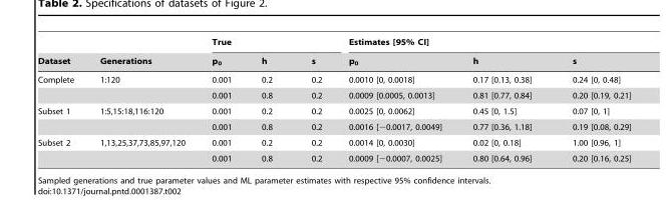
<table><thead><tr><td rowspan="2">Dataset</td><td rowspan="2">Generations</td><td colspan="3">True</td><td colspan="3">Estimates [95% CI]</td></tr><tr><td>p<sub>0</sub></td><td>h</td><td>s</td><td>p<sub>0</sub></td><td>h</td><td>s</td></tr></thead><tbody><tr><td rowspan="2">Complete</td><td>1:120</td><td>0.001</td><td>0.2</td><td>0.2</td><td>0.0010 [0, 0.0018]</td><td>0.17 [0.13, 0.38]</td><td>0.24 [0, 0.48]</td></tr><tr><td></td><td>0.001</td><td>0.8</td><td>0.2</td><td>0.0009 [0.0005, 0.0013]</td><td>0.81 [0.77, 0.84]</td><td>0.20 [0.19, 0.21]</td></tr><tr><td rowspan="2">Subset 1</td><td>1:5,15:18,116:120</td><td>0.001</td><td>0.2</td><td>0.2</td><td>0.0025 [0, 0.0062]</td><td>0.45 [0, 1.5]</td><td>0.07 [0, 1]</td></tr><tr><td></td><td>0.001</td><td>0.8</td><td>0.2</td><td>0.0016 [−0.0017, 0.0049]</td><td>0.77 [0.36, 1.18]</td><td>0.19 [0.08, 0.29]</td></tr><tr><td rowspan="2">Subset 2</td><td>1,13,25,37,73,85,97,120</td><td>0.001</td><td>0.2</td><td>0.2</td><td>0.0014 [0, 0.0030]</td><td>0.02 [0, 0.18]</td><td>1.00 [0.96, 1]</td></tr><tr><td></td><td>0.001</td><td>0.8</td><td>0.2</td><td>0.0009 [−0.0007, 0.0025]</td><td>0.80 [0.64, 0.96]</td><td>0.20 [0.16, 0.25]</td></tr></tbody></table>